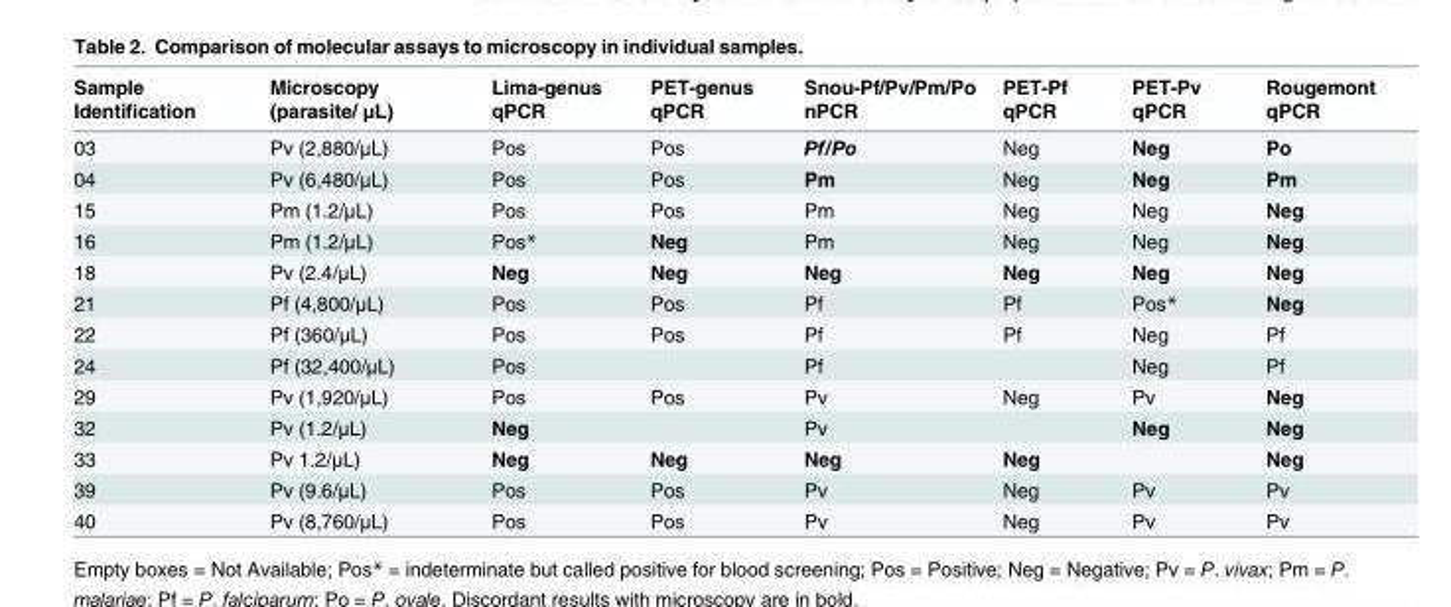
<table><thead><tr><td>Sample Identification</td><td>Microscopy (parasite/ μL)</td><td>Lima-genus qPCR</td><td>PET-genus qPCR</td><td>Snou-Pf/Pv/Pm/Po nPCR</td><td>PET-Pf qPCR</td><td>PET-Pv qPCR</td><td>Rougemont qPCR</td></tr></thead><tbody><tr><td>03</td><td>Pv (2,880/μL)</td><td>Pos</td><td>Pos</td><td>Pf/Po</td><td>Neg</td><td>Neg</td><td>Po</td></tr><tr><td>04</td><td>Pv (6,480/μL)</td><td>Pos</td><td>Pos</td><td>Pm</td><td>Neg</td><td>Neg</td><td>Pm</td></tr><tr><td>15</td><td>Pm (1.2/μL)</td><td>Pos</td><td>Pos</td><td>Pm</td><td>Neg</td><td>Neg</td><td>Neg</td></tr><tr><td>16</td><td>Pm (1.2/μL)</td><td>Pos*</td><td>Neg</td><td>Pm</td><td>Neg</td><td>Neg</td><td>Neg</td></tr><tr><td>18</td><td>Pv (2.4/μL)</td><td>Neg</td><td>Neg</td><td>Neg</td><td>Neg</td><td>Neg</td><td>Neg</td></tr><tr><td>21</td><td>Pf (4,800/μL)</td><td>Pos</td><td>Pos</td><td>Pf</td><td>Pf</td><td>Pos*</td><td>Neg</td></tr><tr><td>22</td><td>Pf (360/μL)</td><td>Pos</td><td>Pos</td><td>Pf</td><td>Pf</td><td>Neg</td><td>Pf</td></tr><tr><td>24</td><td>Pf (32,400/μL)</td><td>Pos</td><td></td><td>Pf</td><td></td><td>Neg</td><td>Pf</td></tr><tr><td>29</td><td>Pv (1,920/μL)</td><td>Pos</td><td>Pos</td><td>Pv</td><td>Neg</td><td>Pv</td><td>Neg</td></tr><tr><td>32</td><td>Pv (1.2/μL)</td><td>Neg</td><td></td><td>Pv</td><td></td><td>Neg</td><td>Neg</td></tr><tr><td>33</td><td>Pv 1.2/μL)</td><td>Neg</td><td>Neg</td><td>Neg</td><td>Neg</td><td></td><td>Neg</td></tr><tr><td>39</td><td>Pv (9.6/μL)</td><td>Pos</td><td>Pos</td><td>Pv</td><td>Neg</td><td>Pv</td><td>Pv</td></tr><tr><td>40</td><td>Pv (8,760/μL)</td><td>Pos</td><td>Pos</td><td>Pv</td><td>Neg</td><td>Pv</td><td>Pv</td></tr></tbody></table>